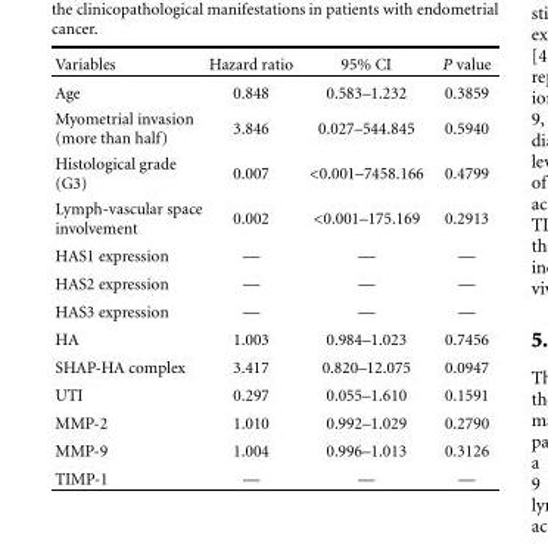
<table><thead><tr><td>Variables</td><td>Hazard ratio</td><td>95% CI</td><td>P value</td></tr></thead><tbody><tr><td>Age</td><td>0.848</td><td>0.583–1.232</td><td>0.3859</td></tr><tr><td>Myometrial invasion (more than half)</td><td>3.846</td><td>0.027–544.845</td><td>0.5940</td></tr><tr><td>Histological grade (G3)</td><td>0.007</td><td>&lt;0.001–7458.166</td><td>0.4799</td></tr><tr><td>Lymph-vascular space involvement</td><td>0.002</td><td>&lt;0.001–175.169</td><td>0.2913</td></tr><tr><td>HAS1 expression</td><td>—</td><td>—</td><td>—</td></tr><tr><td>HAS2 expression</td><td>—</td><td>—</td><td>—</td></tr><tr><td>HAS3 expression</td><td>—</td><td>—</td><td>—</td></tr><tr><td>HA</td><td>1.003</td><td>0.984–1.023</td><td>0.7456</td></tr><tr><td>SHAP-HA complex</td><td>3.417</td><td>0.820–12.075</td><td>0.0947</td></tr><tr><td>UTI</td><td>0.297</td><td>0.055–1.610</td><td>0.1591</td></tr><tr><td>MMP-2</td><td>1.010</td><td>0.992–1.029</td><td>0.2790</td></tr><tr><td>MMP-9</td><td>1.004</td><td>0.996–1.013</td><td>0.3126</td></tr><tr><td>TIMP-1</td><td>—</td><td>—</td><td>—</td></tr></tbody></table>